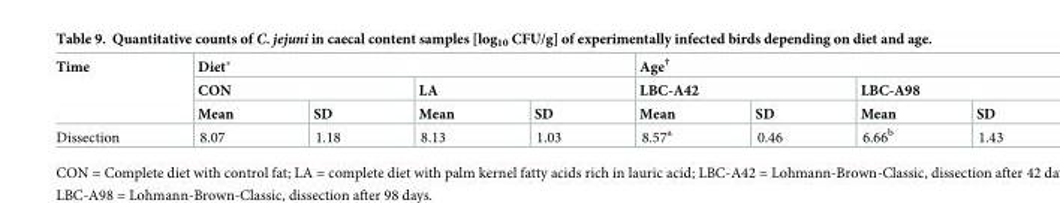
<table><thead><tr><td rowspan="3">Time</td><td colspan="4">Diet*</td><td colspan="4">Age<sup>†</sup></td></tr><tr><td colspan="2">CON</td><td colspan="2">LA</td><td colspan="2">LBC-A42</td><td colspan="2">LBC-A98</td></tr><tr><td>Mean</td><td>SD</td><td>Mean</td><td>SD</td><td>Mean</td><td>SD</td><td>Mean</td><td>SD</td></tr></thead><tbody><tr><td>Dissection</td><td>8.07</td><td>1.18</td><td>8.13</td><td>1.03</td><td>8.57<sup>a</sup></td><td>0.46</td><td>6.66<sup>b</sup></td><td>1.43</td></tr></tbody></table>